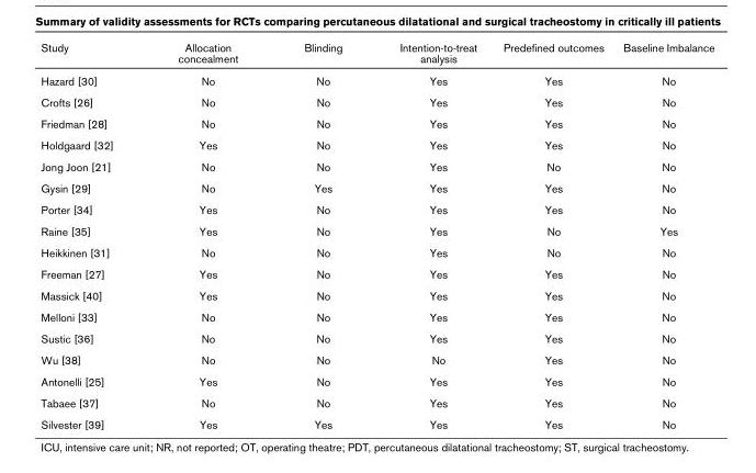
<table><thead><tr><td>Study</td><td>Allocation concealment</td><td>Blinding</td><td>Intention-to-treat analysis</td><td>Predefined outcomes</td><td>Baseline Imbalance</td></tr></thead><tbody><tr><td>Hazard [30]</td><td>No</td><td>No</td><td>Yes</td><td>Yes</td><td>No</td></tr><tr><td>Crofts [26]</td><td>No</td><td>No</td><td>Yes</td><td>Yes</td><td>No</td></tr><tr><td>Friedman [28]</td><td>No</td><td>No</td><td>Yes</td><td>Yes</td><td>No</td></tr><tr><td>Holdgaard [32]</td><td>Yes</td><td>No</td><td>Yes</td><td>Yes</td><td>No</td></tr><tr><td>Jong Joon [21]</td><td>No</td><td>No</td><td>Yes</td><td>No</td><td>No</td></tr><tr><td>Gysin [29]</td><td>No</td><td>Yes</td><td>Yes</td><td>Yes</td><td>No</td></tr><tr><td>Porter [34]</td><td>Yes</td><td>No</td><td>Yes</td><td>Yes</td><td>No</td></tr><tr><td>Raine [35]</td><td>Yes</td><td>No</td><td>Yes</td><td>No</td><td>Yes</td></tr><tr><td>Heikkinen [31]</td><td>No</td><td>No</td><td>Yes</td><td>No</td><td>No</td></tr><tr><td>Freeman [27]</td><td>Yes</td><td>No</td><td>Yes</td><td>Yes</td><td>No</td></tr><tr><td>Massick [40]</td><td>Yes</td><td>No</td><td>Yes</td><td>Yes</td><td>No</td></tr><tr><td>Melloni [33]</td><td>No</td><td>No</td><td>Yes</td><td>Yes</td><td>No</td></tr><tr><td>Sustic [36]</td><td>No</td><td>No</td><td>Yes</td><td>Yes</td><td>No</td></tr><tr><td>Wu [38]</td><td>No</td><td>No</td><td>No</td><td>Yes</td><td>No</td></tr><tr><td>Antonelli [25]</td><td>Yes</td><td>No</td><td>Yes</td><td>Yes</td><td>No</td></tr><tr><td>Tabaee [37]</td><td>No</td><td>No</td><td>Yes</td><td>Yes</td><td>No</td></tr><tr><td>Silvester [39]</td><td>Yes</td><td>Yes</td><td>Yes</td><td>Yes</td><td>No</td></tr></tbody></table>